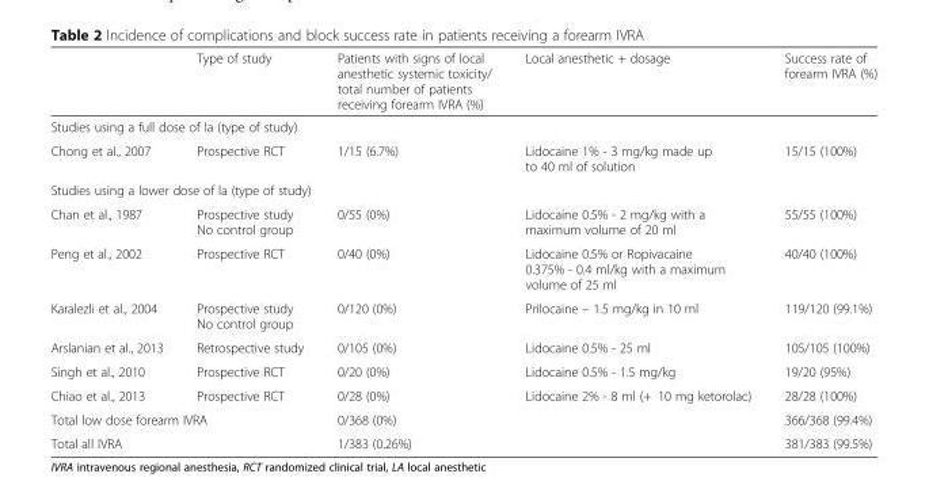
<table><thead><tr><td></td><td>Type of study</td><td>Patients with signs of local anesthetic systemic toxicity/ total number of patients receiving forearm IVRA (%)</td><td>Local anesthetic + dosage</td><td>Success rate of forearm IVRA (%)</td></tr></thead><tbody><tr><td colspan="5">Studies using a full dose of la (type of study)</td></tr><tr><td>Chong et al., 2007</td><td>Prospective RCT</td><td>1/15 (6.7%)</td><td>Lidocaine 1% - 3 mg/kg made up to 40 ml of solution</td><td>15/15 (100%)</td></tr><tr><td colspan="5">Studies using a lower dose of la (type of study)</td></tr><tr><td>Chan et al., 1987</td><td>Prospective study No control group</td><td>0/55 (0%)</td><td>Lidocaine 0.5% - 2 mg/kg with a maximum volume of 20 ml</td><td>55/55 (100%)</td></tr><tr><td>Peng et al., 2002</td><td>Prospective RCT</td><td>0/40 (0%)</td><td>Lidocaine 0.5% or Ropivacaine 0.375% - 0.4 ml/kg with a maximum volume of 25 ml</td><td>40/40 (100%)</td></tr><tr><td>Karalezli et al., 2004</td><td>Prospective study No control group</td><td>0/120 (0%)</td><td>Prilocaine – 1.5 mg/kg in 10 ml</td><td>119/120 (99.1%)</td></tr><tr><td>Arslanian et al., 2013</td><td>Retrospective study</td><td>0/105 (0%)</td><td>Lidocaine 0.5% - 25 ml</td><td>105/105 (100%)</td></tr><tr><td>Singh et al., 2010</td><td>Prospective RCT</td><td>0/20 (0%)</td><td>Lidocaine 0.5% - 1.5 mg/kg</td><td>19/20 (95%)</td></tr><tr><td>Chiao et al., 2013</td><td>Prospective RCT</td><td>0/28 (0%)</td><td>Lidocaine 2% - 8 ml (+ 10 mg ketorolac)</td><td>28/28 (100%)</td></tr><tr><td colspan="2">Total low dose forearm IVRA</td><td colspan="2">0/368 (0%)</td><td>366/368 (99.4%)</td></tr><tr><td colspan="2">Total all IVRA</td><td colspan="2">1/383 (0.26%)</td><td>381/383 (99.5%)</td></tr></tbody></table>